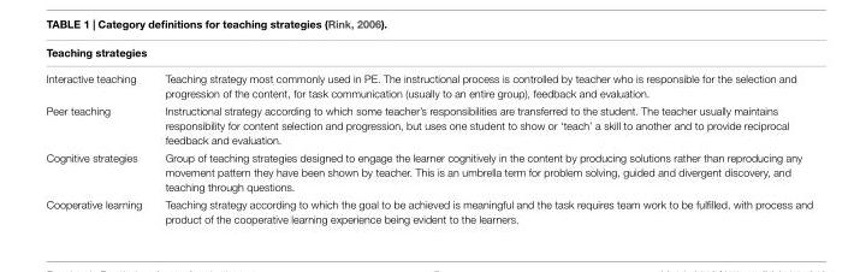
<table><thead><tr><td>Teaching strategies</td><td></td></tr></thead><tbody><tr><td>Interactive teaching</td><td>Teaching strategy most commonly used in PE. The instructional process is controlled by teacher who is responsible for the selection and progression of the content, for task communication (usually to an entire group), feedback and evaluation.</td></tr><tr><td>Peer teaching</td><td>Instructional strategy according to which some teacher’s responsibilities are transferred to the student. The teacher usually maintains responsibility for content selection and progression, but uses one student to show or ‘teach’ a skill to another and to provide reciprocal feedback and evaluation.</td></tr><tr><td>Cognitive strategies</td><td>Group of teaching strategies designed to engage the learner cognitively in the content by producing solutions rather than reproducing any movement pattern they have been shown by teacher. This is an umbrella term for problem solving, guided and divergent discovery, and teaching through questions.</td></tr><tr><td>Cooperative learning</td><td>Teaching strategy according to which the goal to be achieved is meaningful and the task requires team work to be fulfilled, with process and product of the cooperative learning experience being evident to the learners.</td></tr></tbody></table>